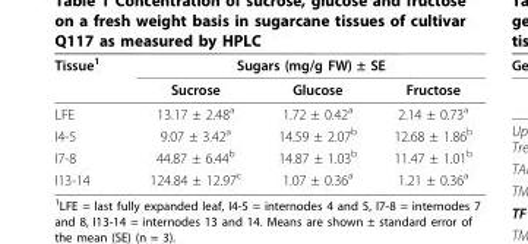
<table><thead><tr><td rowspan="2">Tissue<sup>1</sup></td><td colspan="3">Sugars (mg/g FW) ± SE</td></tr><tr><td>Sucrose</td><td>Glucose</td><td>Fructose</td></tr></thead><tbody><tr><td>LFE</td><td>13.17 ± 2.48<sup>a</sup></td><td>1.72 ± 0.42<sup>a</sup></td><td>2.14 ± 0.73<sup>a</sup></td></tr><tr><td>I4-5</td><td>9.07 ± 3.42<sup>a</sup></td><td>14.59 ± 2.07<sup>b</sup></td><td>12.68 ± 1.86<sup>b</sup></td></tr><tr><td>I7-8</td><td>44.87 ± 6.44<sup>b</sup></td><td>14.87 ± 1.03<sup>b</sup></td><td>11.47 ± 1.01<sup>b</sup></td></tr><tr><td>I13-14</td><td>124.84 ± 12.97<sup>c</sup></td><td>1.07 ± 0.36<sup>a</sup></td><td>1.21 ± 0.36<sup>a</sup></td></tr></tbody></table>